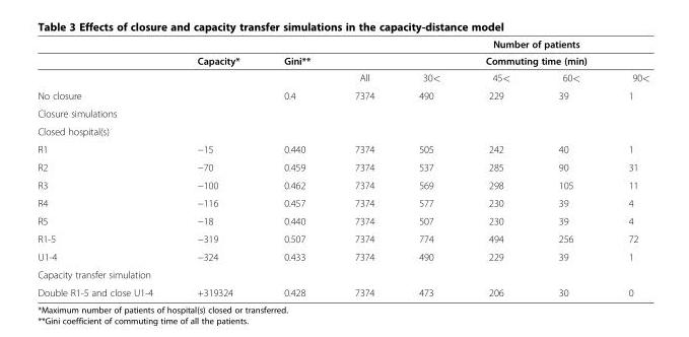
<table><thead><tr><td rowspan="3"></td><td rowspan="3">Capacity*</td><td rowspan="3">Gini**</td><td rowspan="3">All</td><td rowspan="2" colspan="4">Number of patients Commuting time (min)</td></tr><tr></tr><tr><td>30&lt;</td><td>45&lt;</td><td>60&lt;</td><td>90&lt;</td></tr></thead><tbody><tr><td>No closure</td><td></td><td>0.4</td><td>7374</td><td>490</td><td>229</td><td>39</td><td>1</td></tr><tr><td colspan="8">Closure simulations</td></tr><tr><td colspan="8">Closed hospital(s)</td></tr><tr><td>R1</td><td>−15</td><td>0.440</td><td>7374</td><td>505</td><td>242</td><td>40</td><td>1</td></tr><tr><td>R2</td><td>−70</td><td>0.459</td><td>7374</td><td>537</td><td>285</td><td>90</td><td>31</td></tr><tr><td>R3</td><td>−100</td><td>0.462</td><td>7374</td><td>569</td><td>298</td><td>105</td><td>11</td></tr><tr><td>R4</td><td>−116</td><td>0.457</td><td>7374</td><td>577</td><td>230</td><td>39</td><td>4</td></tr><tr><td>R5</td><td>−18</td><td>0.440</td><td>7374</td><td>507</td><td>230</td><td>39</td><td>4</td></tr><tr><td>R1-5</td><td>−319</td><td>0.507</td><td>7374</td><td>774</td><td>494</td><td>256</td><td>72</td></tr><tr><td>U1-4</td><td>−324</td><td>0.433</td><td>7374</td><td>490</td><td>229</td><td>39</td><td>1</td></tr><tr><td colspan="8">Capacity transfer simulation</td></tr><tr><td>Double R1-5 and close U1-4</td><td>+319324</td><td>0.428</td><td>7374</td><td>473</td><td>206</td><td>30</td><td>0</td></tr></tbody></table>